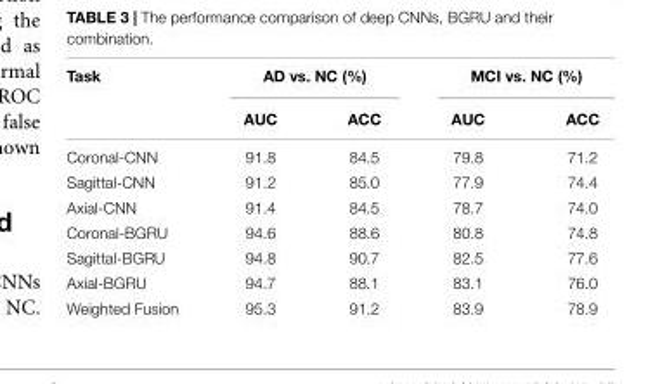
<table><thead><tr><td rowspan="2">Task</td><td colspan="2">AD vs. NC (%)</td><td colspan="2">MCI vs. NC (%)</td></tr><tr><td>AUC</td><td>ACC</td><td>AUC</td><td>ACC</td></tr></thead><tbody><tr><td>Coronal-CNN</td><td>91.8</td><td>84.5</td><td>79.8</td><td>71.2</td></tr><tr><td>Sagittal-CNN</td><td>91.2</td><td>85.0</td><td>77.9</td><td>74.4</td></tr><tr><td>Axial-CNN</td><td>91.4</td><td>84.5</td><td>78.7</td><td>74.0</td></tr><tr><td>Coronal-BGRU</td><td>94.6</td><td>88.6</td><td>80.8</td><td>74.8</td></tr><tr><td>Sagittal-BGRU</td><td>94.8</td><td>90.7</td><td>82.5</td><td>77.6</td></tr><tr><td>Axial-BGRU</td><td>94.7</td><td>88.1</td><td>83.1</td><td>76.0</td></tr><tr><td>Weighted Fusion</td><td>95.3</td><td>91.2</td><td>83.9</td><td>78.9</td></tr></tbody></table>